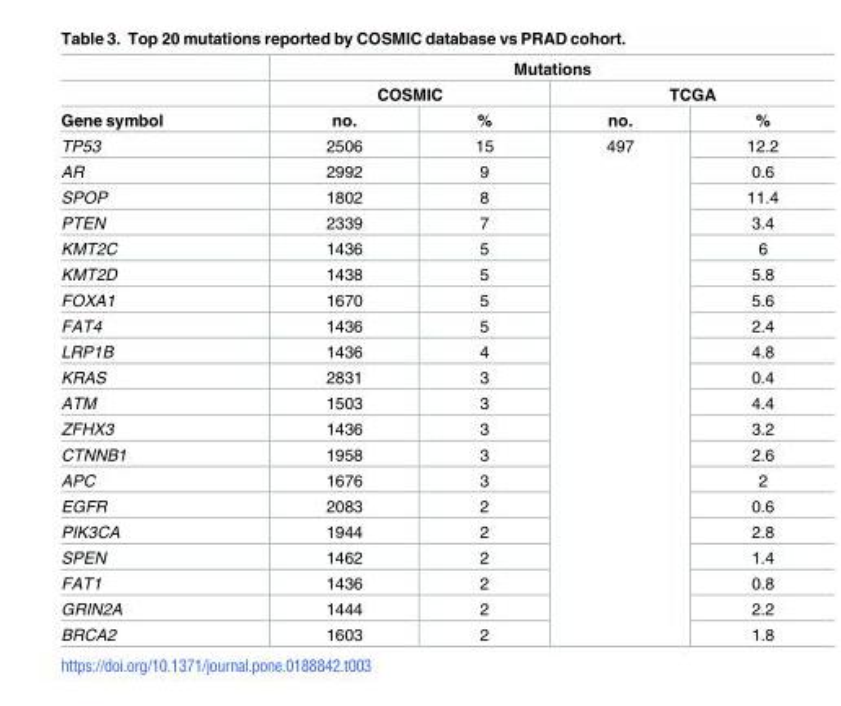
<table><thead><tr><td rowspan="3">Gene symbol</td><td colspan="4">Mutations</td></tr><tr><td colspan="2">COSMIC</td><td colspan="2">TCGA</td></tr><tr><td>no.</td><td>%</td><td>no.</td><td>%</td></tr></thead><tbody><tr><td>TP53</td><td>2506</td><td>15</td><td rowspan="20">497</td><td>12.2</td></tr><tr><td>AR</td><td>2992</td><td>9</td><td>0.6</td></tr><tr><td>SPOP</td><td>1802</td><td>8</td><td>11.4</td></tr><tr><td>PTEN</td><td>2339</td><td>7</td><td>3.4</td></tr><tr><td>KMT2C</td><td>1436</td><td>5</td><td>6</td></tr><tr><td>KMT2D</td><td>1438</td><td>5</td><td>5.8</td></tr><tr><td>FOXA1</td><td>1670</td><td>5</td><td>5.6</td></tr><tr><td>FAT4</td><td>1436</td><td>5</td><td>2.4</td></tr><tr><td>LRP1B</td><td>1436</td><td>4</td><td>4.8</td></tr><tr><td>KRAS</td><td>2831</td><td>3</td><td>0.4</td></tr><tr><td>ATM</td><td>1503</td><td>3</td><td>4.4</td></tr><tr><td>ZFHX3</td><td>1436</td><td>3</td><td>3.2</td></tr><tr><td>CTNNB1</td><td>1958</td><td>3</td><td>2.6</td></tr><tr><td>APC</td><td>1676</td><td>3</td><td>2</td></tr><tr><td>EGFR</td><td>2083</td><td>2</td><td>0.6</td></tr><tr><td>PIK3CA</td><td>1944</td><td>2</td><td>2.8</td></tr><tr><td>SPEN</td><td>1462</td><td>2</td><td>1.4</td></tr><tr><td>FAT1</td><td>1436</td><td>2</td><td>0.8</td></tr><tr><td>GRIN2A</td><td>1444</td><td>2</td><td>2.2</td></tr><tr><td>BRCA2</td><td>1603</td><td>2</td><td>1.8</td></tr></tbody></table>